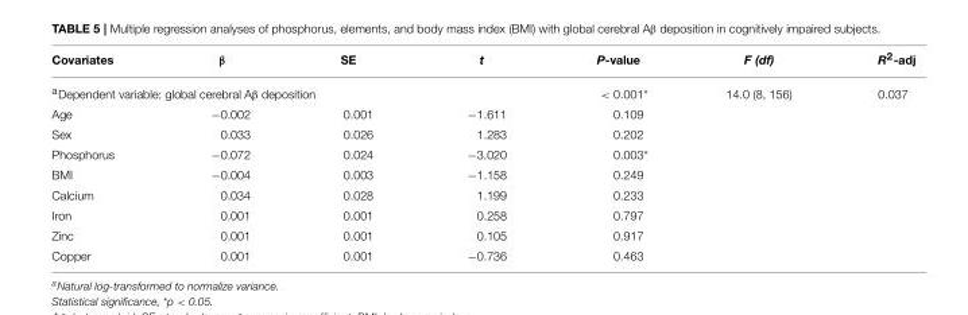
<table><thead><tr><td>Covariates</td><td>β</td><td>SE</td><td>t</td><td>P-value</td><td>F (df)</td><td>R<sup>2</sup>-adj</td></tr></thead><tbody><tr><td colspan="4"><sup>a</sup>Dependent variable: global cerebral Aβ deposition</td><td>&lt; 0.001*</td><td>14.0 (8, 156)</td><td>0.037</td></tr><tr><td>Age</td><td>−0.002</td><td>0.001</td><td>−1.611</td><td>0.109</td><td></td><td></td></tr><tr><td>Sex</td><td>0.033</td><td>0.026</td><td>1.283</td><td>0.202</td><td></td><td></td></tr><tr><td>Phosphorus</td><td>−0.072</td><td>0.024</td><td>−3.020</td><td>0.003*</td><td></td><td></td></tr><tr><td>BMI</td><td>−0.004</td><td>0.003</td><td>−1.158</td><td>0.249</td><td></td><td></td></tr><tr><td>Calcium</td><td>0.034</td><td>0.028</td><td>1.199</td><td>0.233</td><td></td><td></td></tr><tr><td>Iron</td><td>0.001</td><td>0.001</td><td>0.258</td><td>0.797</td><td></td><td></td></tr><tr><td>Zinc</td><td>0.001</td><td>0.001</td><td>0.105</td><td>0.917</td><td></td><td></td></tr><tr><td>Copper</td><td>0.001</td><td>0.001</td><td>−0.736</td><td>0.463</td><td></td><td></td></tr></tbody></table>